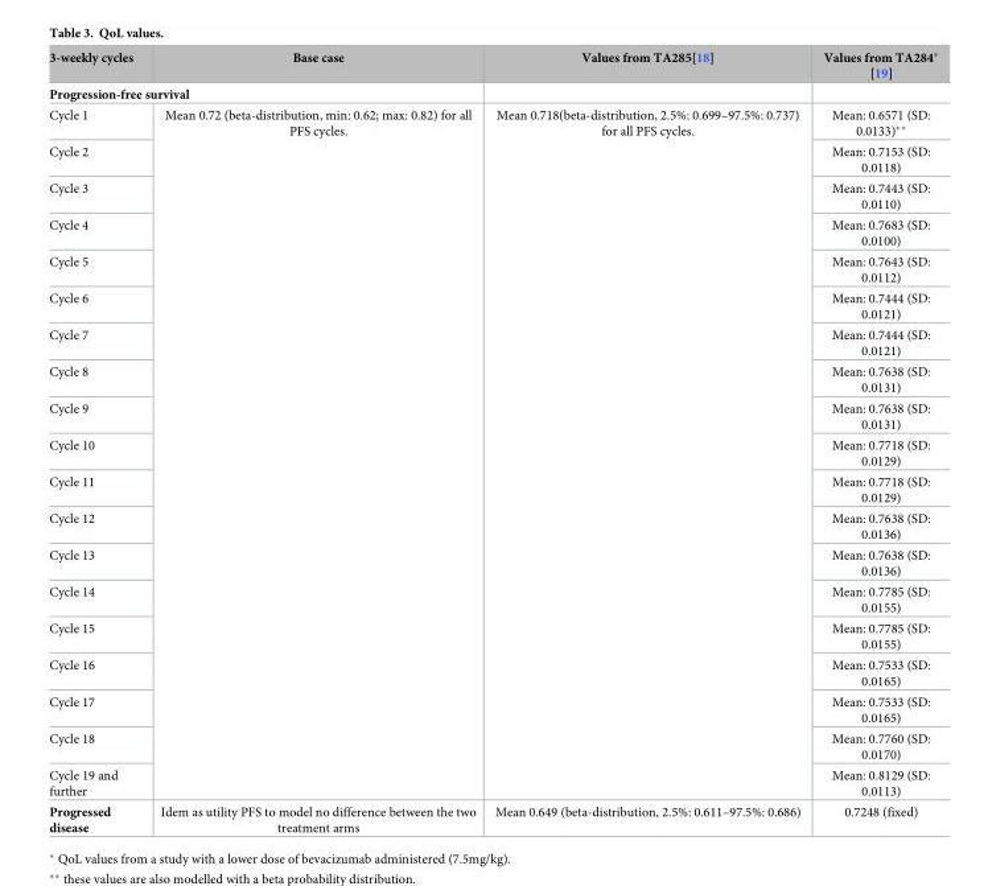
<table><thead><tr><td>3-weekly cycles</td><td>Base case</td><td>Values from TA285[18]</td><td>Values from TA284* [19]</td></tr></thead><tbody><tr><td colspan="4">Progression-free survival</td></tr><tr><td>Cycle 1</td><td rowspan="19">Mean 0.72 (beta-distribution, min: 0.62; max: 0.82) for all PFS cycles.</td><td rowspan="19">Mean 0.718(beta-distribution, 2.5%: 0.699–97.5%: 0.737) for all PFS cycles.</td><td>Mean: 0.6571 (SD: 0.0133)**</td></tr><tr><td>Cycle 2</td><td>Mean: 0.7153 (SD: 0.0118)</td></tr><tr><td>Cycle 3</td><td>Mean: 0.7443 (SD: 0.0110)</td></tr><tr><td>Cycle 4</td><td>Mean: 0.7683 (SD: 0.0100)</td></tr><tr><td>Cycle 5</td><td>Mean: 0.7643 (SD: 0.0112)</td></tr><tr><td>Cycle 6</td><td>Mean: 0.7444 (SD: 0.0121)</td></tr><tr><td>Cycle 7</td><td>Mean: 0.7444 (SD: 0.0121)</td></tr><tr><td>Cycle 8</td><td>Mean: 0.7638 (SD: 0.0131)</td></tr><tr><td>Cycle 9</td><td>Mean: 0.7638 (SD: 0.0131)</td></tr><tr><td>Cycle 10</td><td>Mean: 0.7718 (SD: 0.0129)</td></tr><tr><td>Cycle 11</td><td>Mean: 0.7718 (SD: 0.0129)</td></tr><tr><td>Cycle 12</td><td>Mean: 0.7638 (SD: 0.0136)</td></tr><tr><td>Cycle 13</td><td>Mean: 0.7638 (SD: 0.0136)</td></tr><tr><td>Cycle 14</td><td>Mean: 0.7785 (SD: 0.0155)</td></tr><tr><td>Cycle 15</td><td>Mean: 0.7785 (SD: 0.0155)</td></tr><tr><td>Cycle 16</td><td>Mean: 0.7533 (SD: 0.0165)</td></tr><tr><td>Cycle 17</td><td>Mean: 0.7533 (SD: 0.0165)</td></tr><tr><td>Cycle 18</td><td>Mean: 0.7760 (SD: 0.0170)</td></tr><tr><td>Cycle 19 and further</td><td>Mean: 0.8129 (SD: 0.0113)</td></tr><tr><td>Progressed disease</td><td>Idem as utility PFS to model no difference between the two treatment arms</td><td>Mean 0.649 (beta-distribution, 2.5%: 0.611–97.5%: 0.686)</td><td>0.7248 (fixed)</td></tr></tbody></table>